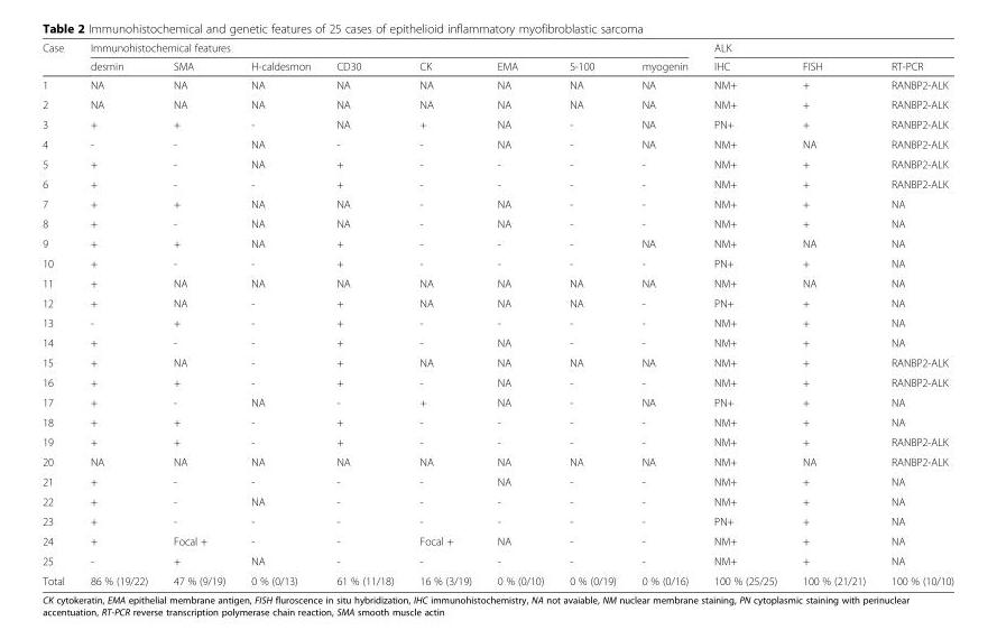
<table><thead><tr><td rowspan="2">Case</td><td colspan="8">Immunohistochemical features</td><td colspan="3">ALK</td></tr><tr><td>desmin</td><td>SMA</td><td>H-caldesmon</td><td>CD30</td><td>CK</td><td>EMA</td><td>S-100</td><td>myogenin</td><td>IHC</td><td>FISH</td><td>RT-PCR</td></tr></thead><tbody><tr><td>1</td><td>NA</td><td>NA</td><td>NA</td><td>NA</td><td>NA</td><td>NA</td><td>NA</td><td>NA</td><td>NM+</td><td>+</td><td>RANBP2-ALK</td></tr><tr><td>2</td><td>NA</td><td>NA</td><td>NA</td><td>NA</td><td>NA</td><td>NA</td><td>NA</td><td>NA</td><td>NM+</td><td>+</td><td>RANBP2-ALK</td></tr><tr><td>3</td><td>+</td><td>+</td><td>-</td><td>NA</td><td>+</td><td>NA</td><td>-</td><td>NA</td><td>PN+</td><td>+</td><td>RANBP2-ALK</td></tr><tr><td>4</td><td>-</td><td>-</td><td>NA</td><td>-</td><td>-</td><td>NA</td><td>-</td><td>NA</td><td>NM+</td><td>NA</td><td>RANBP2-ALK</td></tr><tr><td>5</td><td>+</td><td>-</td><td>NA</td><td>+</td><td>-</td><td>-</td><td>-</td><td>-</td><td>NM+</td><td>+</td><td>RANBP2-ALK</td></tr><tr><td>6</td><td>+</td><td>-</td><td>-</td><td>+</td><td>-</td><td>-</td><td>-</td><td>-</td><td>NM+</td><td>+</td><td>RANBP2-ALK</td></tr><tr><td>7</td><td>+</td><td>+</td><td>NA</td><td>NA</td><td>-</td><td>NA</td><td>-</td><td>-</td><td>NM+</td><td>+</td><td>NA</td></tr><tr><td>8</td><td>+</td><td>-</td><td>NA</td><td>NA</td><td>-</td><td>NA</td><td>-</td><td>-</td><td>NM+</td><td>+</td><td>NA</td></tr><tr><td>9</td><td>+</td><td>+</td><td>NA</td><td>+</td><td>-</td><td>-</td><td>-</td><td>NA</td><td>NM+</td><td>NA</td><td>NA</td></tr><tr><td>10</td><td>+</td><td>-</td><td>-</td><td>+</td><td>-</td><td>-</td><td>-</td><td>-</td><td>PN+</td><td>+</td><td>NA</td></tr><tr><td>11</td><td>+</td><td>NA</td><td>NA</td><td>NA</td><td>NA</td><td>NA</td><td>NA</td><td>NA</td><td>NM+</td><td>NA</td><td>NA</td></tr><tr><td>12</td><td>+</td><td>NA</td><td>-</td><td>+</td><td>NA</td><td>NA</td><td>NA</td><td>-</td><td>PN+</td><td>+</td><td>NA</td></tr><tr><td>13</td><td>-</td><td>+</td><td>-</td><td>+</td><td>-</td><td>-</td><td>-</td><td>-</td><td>NM+</td><td>+</td><td>NA</td></tr><tr><td>14</td><td>+</td><td>-</td><td>-</td><td>+</td><td>-</td><td>NA</td><td>-</td><td>-</td><td>NM+</td><td>+</td><td>NA</td></tr><tr><td>15</td><td>+</td><td>NA</td><td>-</td><td>+</td><td>NA</td><td>NA</td><td>NA</td><td>NA</td><td>NM+</td><td>+</td><td>RANBP2-ALK</td></tr><tr><td>16</td><td>+</td><td>+</td><td>-</td><td>+</td><td>-</td><td>NA</td><td>-</td><td>-</td><td>NM+</td><td>+</td><td>RANBP2-ALK</td></tr><tr><td>17</td><td>+</td><td>-</td><td>NA</td><td>-</td><td>+</td><td>NA</td><td>-</td><td>NA</td><td>PN+</td><td>+</td><td>NA</td></tr><tr><td>18</td><td>+</td><td>+</td><td>-</td><td>+</td><td>-</td><td>-</td><td>-</td><td>-</td><td>NM+</td><td>+</td><td>NA</td></tr><tr><td>19</td><td>+</td><td>+</td><td>-</td><td>+</td><td>-</td><td>-</td><td>-</td><td>-</td><td>NM+</td><td>+</td><td>RANBP2-ALK</td></tr><tr><td>20</td><td>NA</td><td>NA</td><td>NA</td><td>NA</td><td>NA</td><td>NA</td><td>NA</td><td>NA</td><td>NM+</td><td>NA</td><td>RANBP2-ALK</td></tr><tr><td>21</td><td>+</td><td>-</td><td>-</td><td>-</td><td>-</td><td>NA</td><td>-</td><td>-</td><td>NM+</td><td>+</td><td>NA</td></tr><tr><td>22</td><td>+</td><td>-</td><td>NA</td><td>-</td><td>-</td><td>-</td><td>-</td><td>-</td><td>NM+</td><td>+</td><td>NA</td></tr><tr><td>23</td><td>+</td><td>-</td><td>-</td><td>-</td><td>-</td><td>-</td><td>-</td><td>-</td><td>PN+</td><td>+</td><td>NA</td></tr><tr><td>24</td><td>+</td><td>Focal +</td><td>-</td><td>-</td><td>Focal +</td><td>NA</td><td>-</td><td>-</td><td>NM+</td><td>+</td><td>NA</td></tr><tr><td>25</td><td>-</td><td>+</td><td>NA</td><td>-</td><td>-</td><td>-</td><td>-</td><td>-</td><td>NM+</td><td>+</td><td>NA</td></tr><tr><td>Total</td><td>86 % (19/22)</td><td>47 % (9/19)</td><td>0 % (0/13)</td><td>61 % (11/18)</td><td>16 % (3/19)</td><td>0 % (0/10)</td><td>0 % (0/19)</td><td>0 % (0/16)</td><td>100 % (25/25)</td><td>100 % (21/21)</td><td>100 % (10/10)</td></tr></tbody></table>